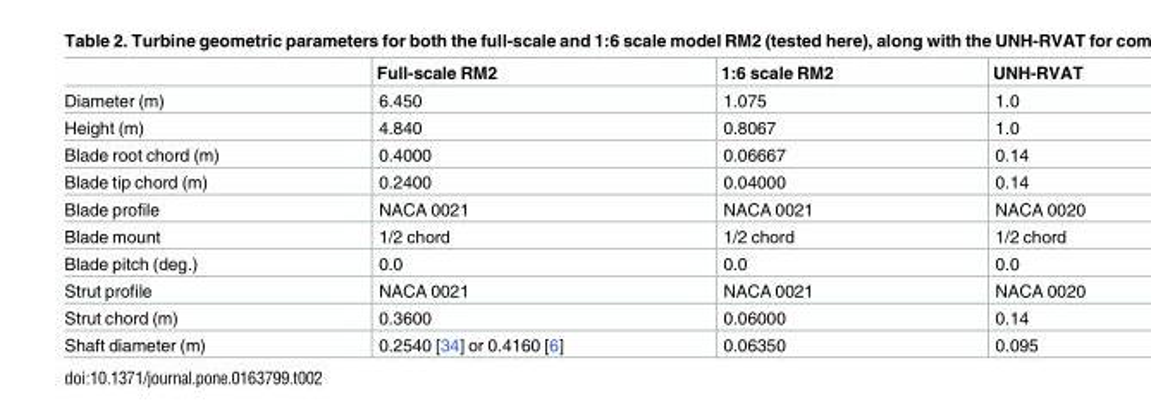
<table><thead><tr><td></td><td>Full-scale RM2</td><td>1:6 scale RM2</td><td>UNH-RVAT</td></tr></thead><tbody><tr><td>Diameter (m)</td><td>6.450</td><td>1.075</td><td>1.0</td></tr><tr><td>Height (m)</td><td>4.840</td><td>0.8067</td><td>1.0</td></tr><tr><td>Blade root chord (m)</td><td>0.4000</td><td>0.06667</td><td>0.14</td></tr><tr><td>Blade tip chord (m)</td><td>0.2400</td><td>0.04000</td><td>0.14</td></tr><tr><td>Blade profile</td><td>NACA 0021</td><td>NACA 0021</td><td>NACA 0020</td></tr><tr><td>Blade mount</td><td>1/2 chord</td><td>1/2 chord</td><td>1/2 chord</td></tr><tr><td>Blade pitch (deg.)</td><td>0.0</td><td>0.0</td><td>0.0</td></tr><tr><td>Strut profile</td><td>NACA 0021</td><td>NACA 0021</td><td>NACA 0020</td></tr><tr><td>Strut chord (m)</td><td>0.3600</td><td>0.06000</td><td>0.14</td></tr><tr><td>Shaft diameter (m)</td><td>0.2540 [34] or 0.4160 [6]</td><td>0.06350</td><td>0.095</td></tr></tbody></table>